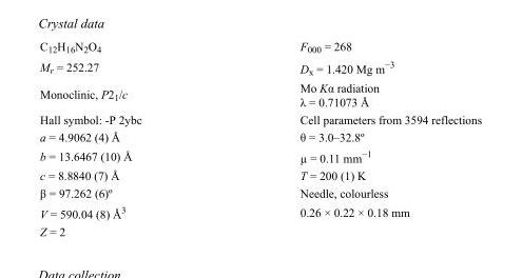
<table><tbody><tr><td>C<sub>12</sub>H<sub>16</sub>N<sub>2</sub>O<sub>4</sub></td><td>F<sub>000</sub> = 268</td></tr><tr><td>M<sub>r</sub> = 252.27</td><td>D<sub>x</sub> = 1.420 Mg m<sup>−3</sup></td></tr><tr><td>Monoclinic, P2<sub>1</sub>/c</td><td>Mo Kα radiation λ = 0.71073 Å</td></tr><tr><td>Hall symbol: -P 2ybc</td><td>Cell parameters from 3594 reflections</td></tr><tr><td>a = 4.9062 (4) Å</td><td>θ = 3.0–32.8º</td></tr><tr><td>b = 13.6467 (10) Å</td><td>µ = 0.11 mm<sup>−1</sup></td></tr><tr><td>c = 8.8840 (7) Å</td><td>T = 200 (1) K</td></tr><tr><td>β = 97.262 (6)º</td><td>Needle, colourless</td></tr><tr><td>V = 590.04 (8) Å<sup>3</sup></td><td>0.26 × 0.22 × 0.18 mm</td></tr><tr><td>Z = 2</td><td></td></tr></tbody></table>